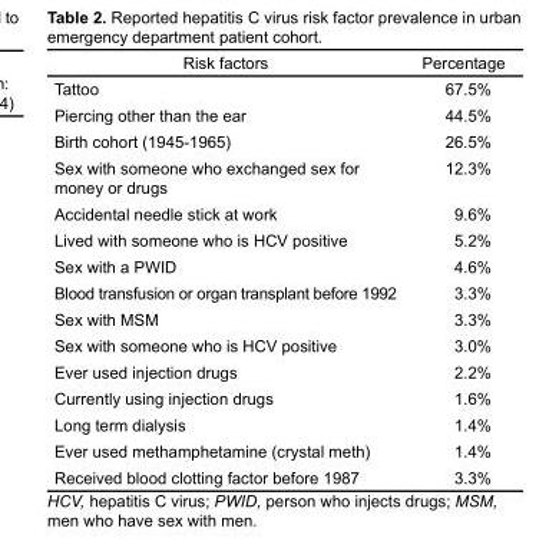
<table><thead><tr><td>Risk factors</td><td>Percentage</td></tr></thead><tbody><tr><td>Tattoo</td><td>67.5%</td></tr><tr><td>Piercing other than the ear</td><td>44.5%</td></tr><tr><td>Birth cohort (1945-1965)</td><td>26.5%</td></tr><tr><td>Sex with someone who exchanged sex for money or drugs</td><td>12.3%</td></tr><tr><td>Accidental needle stick at work</td><td>9.6%</td></tr><tr><td>Lived with someone who is HCV positive</td><td>5.2%</td></tr><tr><td>Sex with a PWID</td><td>4.6%</td></tr><tr><td>Blood transfusion or organ transplant before 1992</td><td>3.3%</td></tr><tr><td>Sex with MSM</td><td>3.3%</td></tr><tr><td>Sex with someone who is HCV positive</td><td>3.0%</td></tr><tr><td>Ever used injection drugs</td><td>2.2%</td></tr><tr><td>Currently using injection drugs</td><td>1.6%</td></tr><tr><td>Long term dialysis</td><td>1.4%</td></tr><tr><td>Ever used methamphetamine (crystal meth)</td><td>1.4%</td></tr><tr><td>Received blood clotting factor before 1987</td><td>3.3%</td></tr></tbody></table>